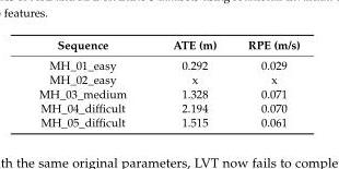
<table><thead><tr><td>Sequence</td><td>ATE (m)</td><td>RPE (m/s)</td></tr></thead><tbody><tr><td>MH_01_easy</td><td>0.292</td><td>0.029</td></tr><tr><td>MH_02_easy</td><td>x</td><td>x</td></tr><tr><td>MH_03_medium</td><td>1.328</td><td>0.071</td></tr><tr><td>MH_04_difficult</td><td>2.194</td><td>0.070</td></tr><tr><td>MH_05_difficult</td><td>1.515</td><td>0.061</td></tr></tbody></table>